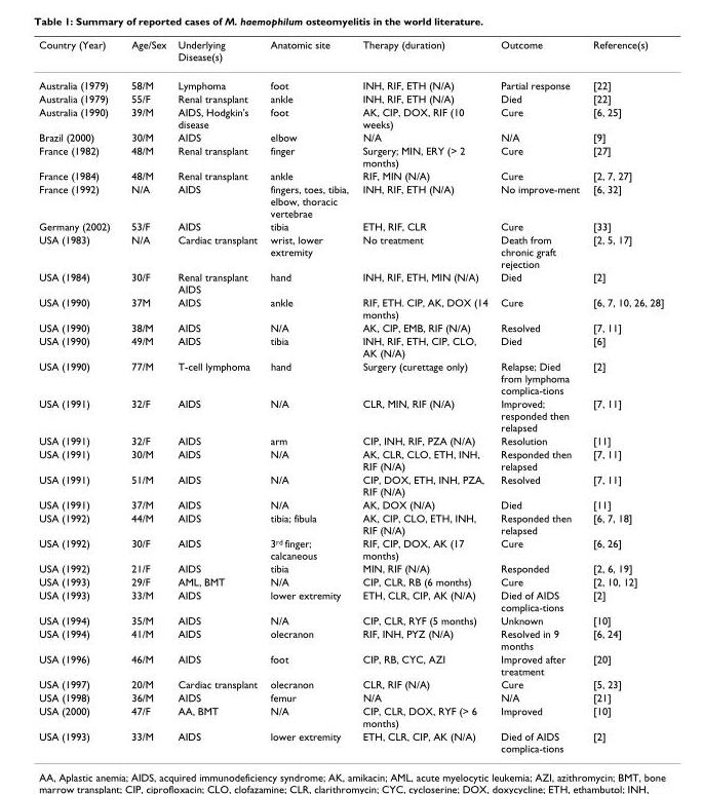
<table><thead><tr><td>Country (Year)</td><td>Age/Sex</td><td>Underlying Disease(s)</td><td>Anatomic site</td><td>Therapy (duration)</td><td>Outcome</td><td>Reference(s)</td></tr></thead><tbody><tr><td>Australia (1979)</td><td>58/M</td><td>Lymphoma</td><td>foot</td><td>INH, RIF, ETH (N/A)</td><td>Partial response</td><td>[22]</td></tr><tr><td>Australia (1979)</td><td>55/F</td><td>Renal transplant</td><td>ankle</td><td>INH, RIF, ETH (N/A)</td><td>Died</td><td>[22]</td></tr><tr><td>Australia (1990)</td><td>39/M</td><td>AIDS, Hodgkin&#x27;s disease</td><td>foot</td><td>AK, CIP, DOX, RIF (10 weeks)</td><td>Cure</td><td>[6, 25]</td></tr><tr><td>Brazil (2000)</td><td>30/M</td><td>AIDS</td><td>elbow</td><td>N/A</td><td>N/A</td><td>[9]</td></tr><tr><td>France (1982)</td><td>48/M</td><td>Renal transplant</td><td>finger</td><td>Surgery; MIN, ERY (&gt; 2 months)</td><td>Cure</td><td>[27]</td></tr><tr><td>France (1984)</td><td>48/M</td><td>Renal transplant</td><td>ankle</td><td>RIF, MIN (N/A)</td><td>Cure</td><td>[2, 7, 27]</td></tr><tr><td>France (1992)</td><td>N/A</td><td>AIDS</td><td>fingers, toes, tibia, elbow, thoracic vertebrae</td><td>INH, RIF, ETH (N/A)</td><td>No improve-ment</td><td>[6, 32]</td></tr><tr><td>Germany (2002)</td><td>53/F</td><td>AIDS</td><td>tibia</td><td>ETH, RIF, CLR</td><td>Cure</td><td>[33]</td></tr><tr><td>USA (1983)</td><td>N/A</td><td>Cardiac transplant</td><td>wrist, lower extremity</td><td>No treatment</td><td>Death from chronic graft rejection</td><td>[2, 5, 17]</td></tr><tr><td>USA (1984)</td><td>30/F</td><td>Renal transplant AIDS</td><td>hand</td><td>INH, RIF, ETH, MIN (N/A)</td><td>Died</td><td>[2]</td></tr><tr><td>USA (1990)</td><td>37M</td><td>AIDS</td><td>ankle</td><td>RIF, ETH. CIP, AK, DOX (14 months)</td><td>Cure</td><td>[6, 7, 10, 26, 28]</td></tr><tr><td>USA (1990)</td><td>38/M</td><td>AIDS</td><td>N/A</td><td>AK, CIP, EMB, RIF (N/A)</td><td>Resolved</td><td>[7, 11]</td></tr><tr><td>USA (1990)</td><td>49/M</td><td>AIDS</td><td>tibia</td><td>INH, RIF, ETH, CIP, CLO, AK (N/A)</td><td>Died</td><td>[6]</td></tr><tr><td>USA (1990)</td><td>77/M</td><td>T-cell lymphoma</td><td>hand</td><td>Surgery (curettage only)</td><td>Relapse; Died from lymphoma complica-tions</td><td>[2]</td></tr><tr><td>USA (1991)</td><td>32/F</td><td>AIDS</td><td>N/A</td><td>CLR, MIN, RIF (N/A)</td><td>Improved; responded then relapsed</td><td>[7, 11]</td></tr><tr><td>USA (1991)</td><td>32/F</td><td>AIDS</td><td>arm</td><td>CIP, INH, RIF, PZA (N/A)</td><td>Resolution</td><td>[11]</td></tr><tr><td>USA (1991)</td><td>30/M</td><td>AIDS</td><td>N/A</td><td>AK, CLR, CLO, ETH, INH, RIF (N/A)</td><td>Responded then relapsed</td><td>[7, 11]</td></tr><tr><td>USA (1991)</td><td>51/M</td><td>AIDS</td><td>N/A</td><td>CIP, DOX, ETH, INH, PZA, RIF (N/A)</td><td>Resolved</td><td>[7, 11]</td></tr><tr><td>USA (1991)</td><td>37/M</td><td>AIDS</td><td>N/A</td><td>AK, DOX (N/A)</td><td>Died</td><td>[11]</td></tr><tr><td>USA (1992)</td><td>44/M</td><td>AIDS</td><td>tibia; fibula</td><td>AK, CIP, CLO, ETH, INH, RIF (N/A)</td><td>Responded then relapsed</td><td>[6, 7, 18]</td></tr><tr><td>USA (1992)</td><td>30/F</td><td>AIDS</td><td>3<sup>rd</sup> finger; calcaneous</td><td>RIF, CIP, DOX, AK (17 months)</td><td>Cure</td><td>[6, 26]</td></tr><tr><td>USA (1992)</td><td>21/F</td><td>AIDS</td><td>tibia</td><td>MIN, RIF (N/A)</td><td>Responded</td><td>[2, 6, 19]</td></tr><tr><td>USA (1993)</td><td>29/F</td><td>AML, BMT</td><td>N/A</td><td>CIP, CLR, RB (6 months)</td><td>Cure</td><td>[2, 10, 12]</td></tr><tr><td>USA (1993)</td><td>33/M</td><td>AIDS</td><td>lower extremity</td><td>ETH, CLR, CIP, AK (N/A)</td><td>Died of AIDS complica-tions</td><td>[2]</td></tr><tr><td>USA (1994)</td><td>35/M</td><td>AIDS</td><td>N/A</td><td>CIP, CLR, RYF (5 months)</td><td>Unknown</td><td>[10]</td></tr><tr><td>USA (1994)</td><td>41/M</td><td>AIDS</td><td>olecranon</td><td>RIF, INH, PYZ (N/A)</td><td>Resolved in 9 months</td><td>[6, 24]</td></tr><tr><td>USA (1996)</td><td>46/M</td><td>AIDS</td><td>foot</td><td>CIP, RB, CYC, AZI</td><td>Improved after treatment</td><td>[20]</td></tr><tr><td>USA (1997)</td><td>20/M</td><td>Cardiac transplant</td><td>olecranon</td><td>CLR, RIF (N/A)</td><td>Cure</td><td>[5, 23]</td></tr><tr><td>USA (1998)</td><td>36/M</td><td>AIDS</td><td>femur</td><td>N/A</td><td>N/A</td><td>[21]</td></tr><tr><td>USA (2000)</td><td>47/F</td><td>AA, BMT</td><td>N/A</td><td>CIP, CLR, DOX, RYF (&gt; 6 months)</td><td>Improved</td><td>[10]</td></tr><tr><td>USA (1993)</td><td>33/M</td><td>AIDS</td><td>lower extremity</td><td>ETH, CLR, CIP, AK (N/A)</td><td>Died of AIDS complica-tions</td><td>[2]</td></tr></tbody></table>